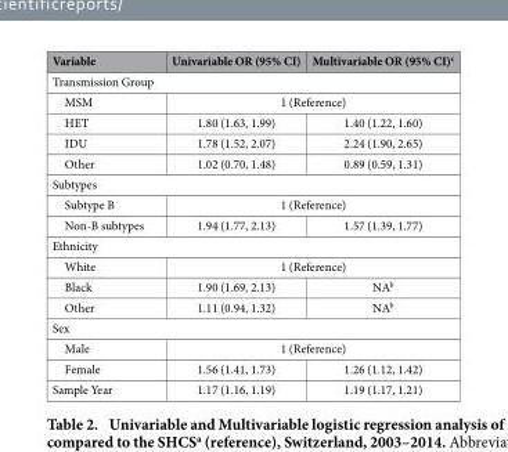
<table><thead><tr><td>Variable</td><td>Univariable OR (95% CI)</td><td>Multivariable OR (95% CI)<sup>c</sup></td></tr></thead><tbody><tr><td colspan="3">Transmission Group</td></tr><tr><td>MSM</td><td colspan="2">1 (Reference)</td></tr><tr><td>HET</td><td>1.80 (1.63, 1.99)</td><td>1.40 (1.22, 1.60)</td></tr><tr><td>IDU</td><td>1.78 (1.52, 2.07)</td><td>2.24 (1.90, 2.65)</td></tr><tr><td>Other</td><td>1.02 (0.70, 1.48)</td><td>0.89 (0.59, 1.31)</td></tr><tr><td colspan="3">Subtypes</td></tr><tr><td>Subtype B</td><td colspan="2">1 (Reference)</td></tr><tr><td>Non-B subtypes</td><td>1.94 (1.77, 2.13)</td><td>1.57 (1.39, 1.77)</td></tr><tr><td colspan="3">Ethnicity</td></tr><tr><td>White</td><td colspan="2">1 (Reference)</td></tr><tr><td>Black</td><td>1.90 (1.69, 2.13)</td><td>NA<sup>b</sup></td></tr><tr><td>Other</td><td>1.11 (0.94, 1.32)</td><td>NA<sup>b</sup></td></tr><tr><td colspan="3">Sex</td></tr><tr><td>Male</td><td colspan="2">1 (Reference)</td></tr><tr><td>Female</td><td>1.56 (1.41, 1.73)</td><td>1.26 (1.12, 1.42)</td></tr><tr><td>Sample Year</td><td>1.17 (1.16, 1.19)</td><td>1.19 (1.17, 1.21)</td></tr></tbody></table>